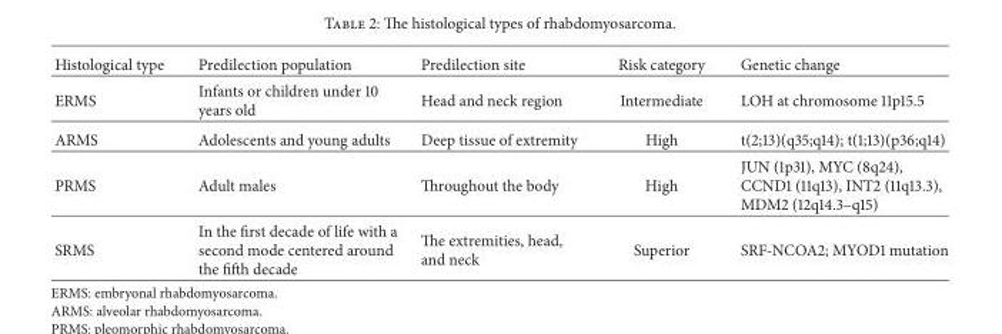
<table><thead><tr><td>Histological type</td><td>Predilection population</td><td>Predilection site</td><td>Risk category</td><td>Genetic change</td></tr></thead><tbody><tr><td>ERMS</td><td>Infants or children under 10 years old</td><td>Head and neck region</td><td>Intermediate</td><td>LOH at chromosome 11p15.5</td></tr><tr><td>ARMS</td><td>Adolescents and young adults</td><td>Deep tissue of extremity</td><td>High</td><td>t(2;13)(q35;q14); t(1;13)(p36;q14)</td></tr><tr><td>PRMS</td><td>Adult males</td><td>Throughout the body</td><td>High</td><td>JUN (1p31), MYC (8q24), CCND1 (11q13), INT2 (11q13.3), MDM2 (12q14.3–q15)</td></tr><tr><td>SRMS</td><td>In the first decade of life with a second mode centered around the fifth decade</td><td>The extremities, head, and neck</td><td>Superior</td><td>SRF-NCOA2; MYOD1 mutation</td></tr></tbody></table>